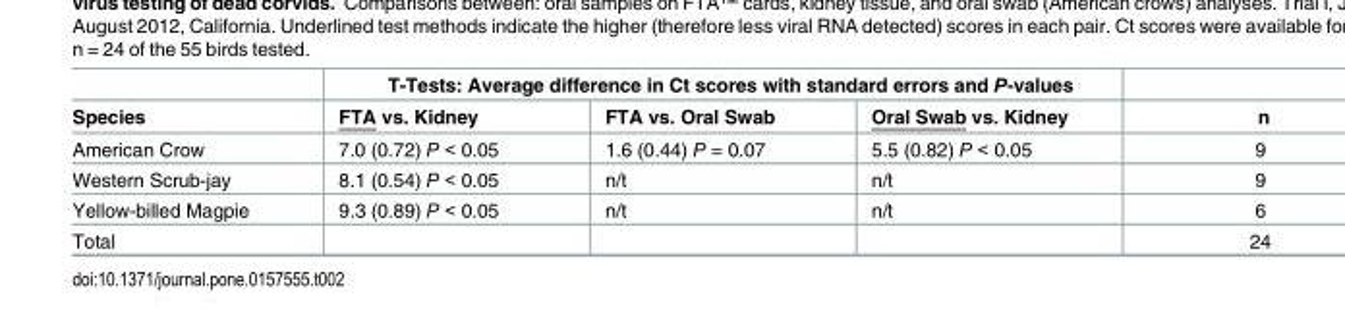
<table><thead><tr><td rowspan="2">Species</td><td colspan="3">T-Tests: Average difference in Ct scores with standard errors and P-values</td><td rowspan="2">n</td></tr><tr><td>FTA vs. Kidney</td><td>FTA vs. Oral Swab</td><td>Oral Swab vs. Kidney</td></tr></thead><tbody><tr><td>American Crow</td><td>7.0 (0.72) P &lt; 0.05</td><td>1.6 (0.44) P = 0.07</td><td>5.5 (0.82) P &lt; 0.05</td><td>9</td></tr><tr><td>Western Scrub-jay</td><td>8.1 (0.54) P &lt; 0.05</td><td>n/t</td><td>n/t</td><td>9</td></tr><tr><td>Yellow-billed Magpie</td><td>9.3 (0.89) P &lt; 0.05</td><td>n/t</td><td>n/t</td><td>6</td></tr><tr><td>Total</td><td></td><td></td><td></td><td>24</td></tr></tbody></table>